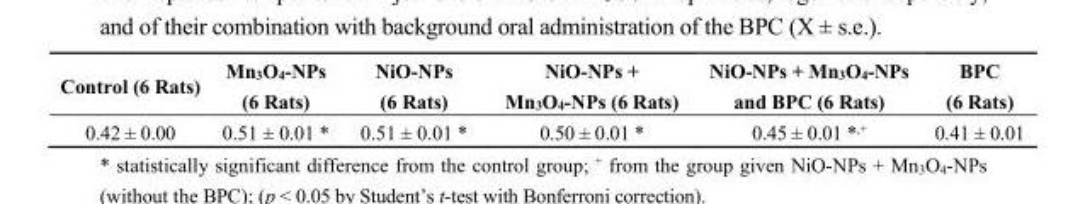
<table><thead><tr><td>Control (6 Rats)</td><td>Mn<sub>3</sub>O<sub>4</sub>-NPs (6 Rats)</td><td>NiO-NPs (6 Rats)</td><td>NiO-NPs + Mn<sub>3</sub>O<sub>4</sub>-NPs (6 Rats)</td><td>NiO-NPs + Mn<sub>3</sub>O<sub>4</sub>-NPs and BPC (6 Rats)</td><td>BPC (6 Rats)</td></tr></thead><tbody><tr><td>0.42 ± 0.00</td><td>0.51 ± 0.01 *</td><td>0.51 ± 0.01 *</td><td>0.50 ± 0.01 *</td><td>0.45 ± 0.01 *<sup>,+</sup></td><td>0.41 ± 0.01</td></tr></tbody></table>